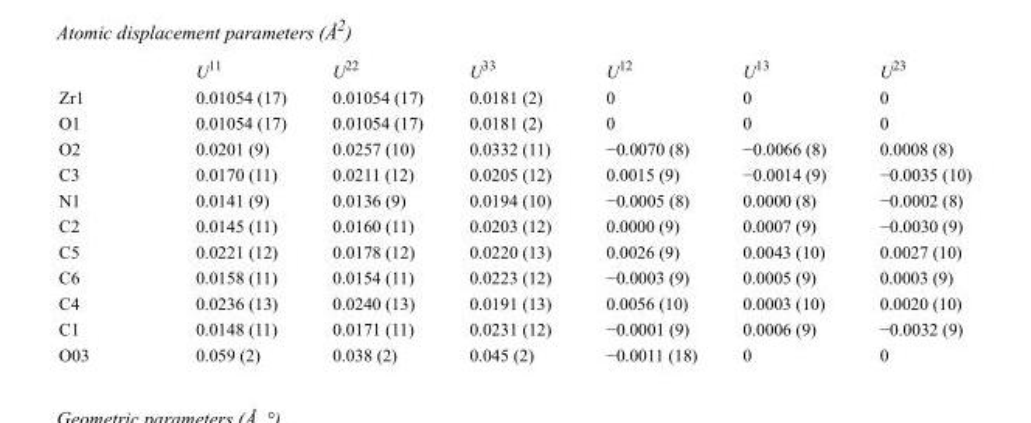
<table><thead><tr><td></td><td>U<sup>11</sup></td><td>U<sup>22</sup></td><td>U<sup>33</sup></td><td>U<sup>12</sup></td><td>U<sup>13</sup></td><td>U<sup>23</sup></td></tr></thead><tbody><tr><td>Zr1</td><td>0.01054 (17)</td><td>0.01054 (17)</td><td>0.0181 (2)</td><td>0</td><td>0</td><td>0</td></tr><tr><td>O1</td><td>0.01054 (17)</td><td>0.01054 (17)</td><td>0.0181 (2)</td><td>0</td><td>0</td><td>0</td></tr><tr><td>O2</td><td>0.0201 (9)</td><td>0.0257 (10)</td><td>0.0332 (11)</td><td>−0.0070 (8)</td><td>−0.0066 (8)</td><td>0.0008 (8)</td></tr><tr><td>C3</td><td>0.0170 (11)</td><td>0.0211 (12)</td><td>0.0205 (12)</td><td>0.0015 (9)</td><td>−0.0014 (9)</td><td>−0.0035 (10)</td></tr><tr><td>N1</td><td>0.0141 (9)</td><td>0.0136 (9)</td><td>0.0194 (10)</td><td>−0.0005 (8)</td><td>0.0000 (8)</td><td>−0.0002 (8)</td></tr><tr><td>C2</td><td>0.0145 (11)</td><td>0.0160 (11)</td><td>0.0203 (12)</td><td>0.0000 (9)</td><td>0.0007 (9)</td><td>−0.0030 (9)</td></tr><tr><td>C5</td><td>0.0221 (12)</td><td>0.0178 (12)</td><td>0.0220 (13)</td><td>0.0026 (9)</td><td>0.0043 (10)</td><td>0.0027 (10)</td></tr><tr><td>C6</td><td>0.0158 (11)</td><td>0.0154 (11)</td><td>0.0223 (12)</td><td>−0.0003 (9)</td><td>0.0005 (9)</td><td>0.0003 (9)</td></tr><tr><td>C4</td><td>0.0236 (13)</td><td>0.0240 (13)</td><td>0.0191 (13)</td><td>0.0056 (10)</td><td>0.0003 (10)</td><td>0.0020 (10)</td></tr><tr><td>C1</td><td>0.0148 (11)</td><td>0.0171 (11)</td><td>0.0231 (12)</td><td>−0.0001 (9)</td><td>0.0006 (9)</td><td>−0.0032 (9)</td></tr><tr><td>O03</td><td>0.059 (2)</td><td>0.038 (2)</td><td>0.045 (2)</td><td>−0.0011 (18)</td><td>0</td><td>0</td></tr></tbody></table>